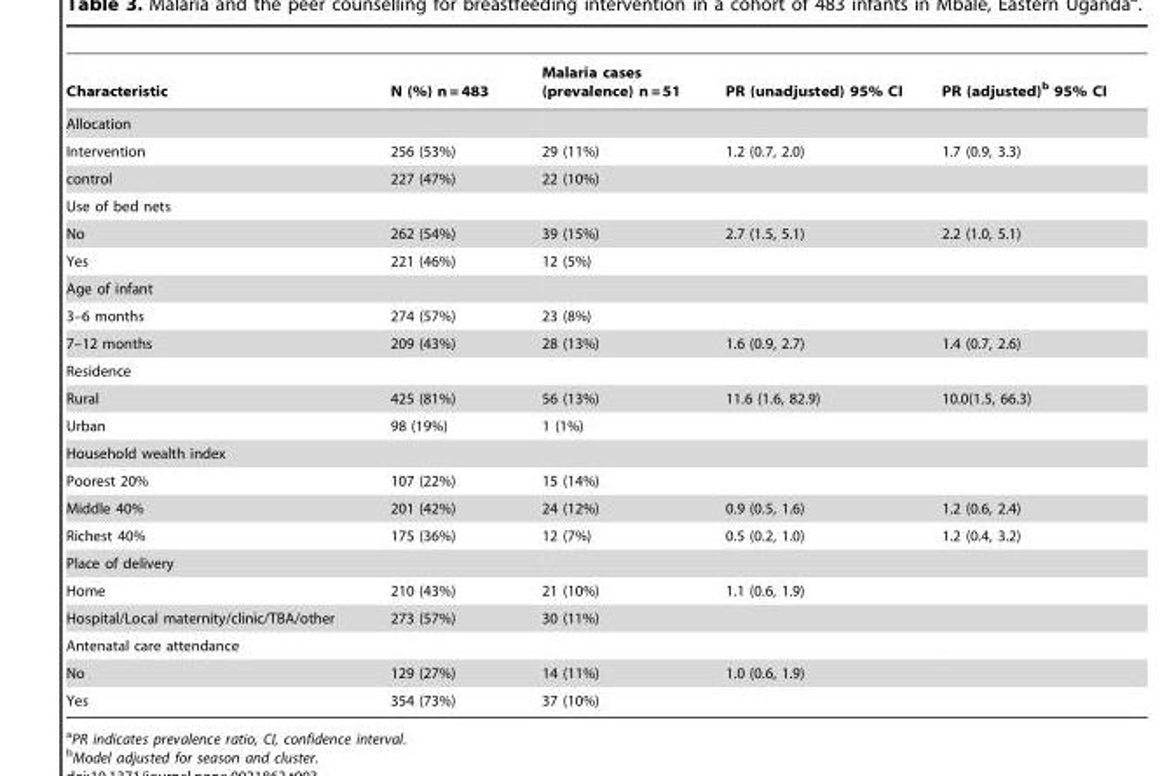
<table><thead><tr><td>Characteristic</td><td>N (%) n = 483</td><td>Malaria cases (prevalence) n = 51</td><td>PR (unadjusted) 95% CI</td><td>PR (adjusted)<sup>b</sup> 95% CI</td></tr></thead><tbody><tr><td colspan="5">Allocation</td></tr><tr><td>Intervention</td><td>256 (53%)</td><td>29 (11%)</td><td>1.2 (0.7, 2.0)</td><td>1.7 (0.9, 3.3)</td></tr><tr><td>control</td><td>227 (47%)</td><td>22 (10%)</td><td></td><td></td></tr><tr><td colspan="5">Use of bed nets</td></tr><tr><td>No</td><td>262 (54%)</td><td>39 (15%)</td><td>2.7 (1.5, 5.1)</td><td>2.2 (1.0, 5.1)</td></tr><tr><td>Yes</td><td>221 (46%)</td><td>12 (5%)</td><td></td><td></td></tr><tr><td colspan="5">Age of infant</td></tr><tr><td>3–6 months</td><td>274 (57%)</td><td>23 (8%)</td><td></td><td></td></tr><tr><td>7–12 months</td><td>209 (43%)</td><td>28 (13%)</td><td>1.6 (0.9, 2.7)</td><td>1.4 (0.7, 2.6)</td></tr><tr><td colspan="5">Residence</td></tr><tr><td>Rural</td><td>425 (81%)</td><td>56 (13%)</td><td>11.6 (1.6, 82.9)</td><td>10.0(1.5, 66.3)</td></tr><tr><td>Urban</td><td>98 (19%)</td><td>1 (1%)</td><td></td><td></td></tr><tr><td colspan="5">Household wealth index</td></tr><tr><td>Poorest 20%</td><td>107 (22%)</td><td>15 (14%)</td><td></td><td></td></tr><tr><td>Middle 40%</td><td>201 (42%)</td><td>24 (12%)</td><td>0.9 (0.5, 1.6)</td><td>1.2 (0.6, 2.4)</td></tr><tr><td>Richest 40%</td><td>175 (36%)</td><td>12 (7%)</td><td>0.5 (0.2, 1.0)</td><td>1.2 (0.4, 3.2)</td></tr><tr><td colspan="5">Place of delivery</td></tr><tr><td>Home</td><td>210 (43%)</td><td>21 (10%)</td><td>1.1 (0.6, 1.9)</td><td></td></tr><tr><td>Hospital/Local maternity/clinic/TBA/other</td><td>273 (57%)</td><td>30 (11%)</td><td></td><td></td></tr><tr><td colspan="5">Antenatal care attendance</td></tr><tr><td>No</td><td>129 (27%)</td><td>14 (11%)</td><td>1.0 (0.6, 1.9)</td><td></td></tr><tr><td>Yes</td><td>354 (73%)</td><td>37 (10%)</td><td></td><td></td></tr></tbody></table>